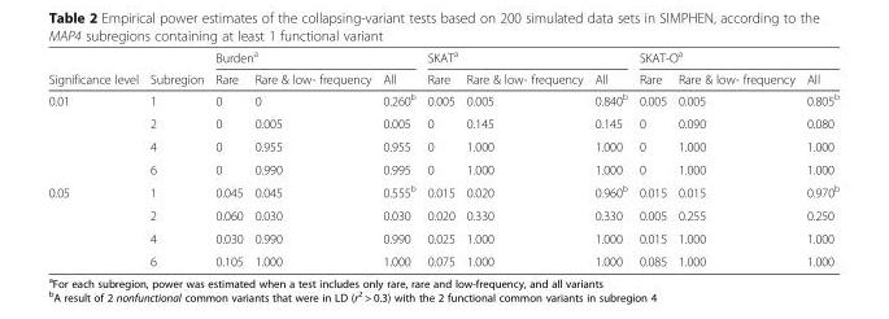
<table><thead><tr><td rowspan="2">Significance level</td><td rowspan="2">Subregion</td><td colspan="3">Burden<sup>a</sup></td><td colspan="3">SKAT<sup>a</sup></td><td colspan="3">SKAT-O<sup>a</sup></td></tr><tr><td>Rare</td><td>Rare &amp; low- frequency</td><td>All</td><td>Rare</td><td>Rare &amp; low- frequency</td><td>All</td><td>Rare</td><td>Rare &amp; low- frequency</td><td>All</td></tr></thead><tbody><tr><td rowspan="4">0.01</td><td>1</td><td>0</td><td>0</td><td>0.260<sup>b</sup></td><td>0.005</td><td>0.005</td><td>0.840<sup>b</sup></td><td>0.005</td><td>0.005</td><td>0.805<sup>b</sup></td></tr><tr><td>2</td><td>0</td><td>0.005</td><td>0.005</td><td>0</td><td>0.145</td><td>0.145</td><td>0</td><td>0.090</td><td>0.080</td></tr><tr><td>4</td><td>0</td><td>0.955</td><td>0.955</td><td>0</td><td>1.000</td><td>1.000</td><td>0</td><td>1.000</td><td>1.000</td></tr><tr><td>6</td><td>0</td><td>0.990</td><td>0.995</td><td>0</td><td>1.000</td><td>1.000</td><td>0</td><td>1.000</td><td>1.000</td></tr><tr><td rowspan="4">0.05</td><td>1</td><td>0.045</td><td>0.045</td><td>0.555<sup>b</sup></td><td>0.015</td><td>0.020</td><td>0.960<sup>b</sup></td><td>0.015</td><td>0.015</td><td>0.970<sup>b</sup></td></tr><tr><td>2</td><td>0.060</td><td>0.030</td><td>0.030</td><td>0.020</td><td>0.330</td><td>0.330</td><td>0.005</td><td>0.255</td><td>0.250</td></tr><tr><td>4</td><td>0.030</td><td>0.990</td><td>0.990</td><td>0.025</td><td>1.000</td><td>1.000</td><td>0.015</td><td>1.000</td><td>1.000</td></tr><tr><td>6</td><td>0.105</td><td>1.000</td><td>1.000</td><td>0.075</td><td>1.000</td><td>1.000</td><td>0.085</td><td>1.000</td><td>1.000</td></tr></tbody></table>